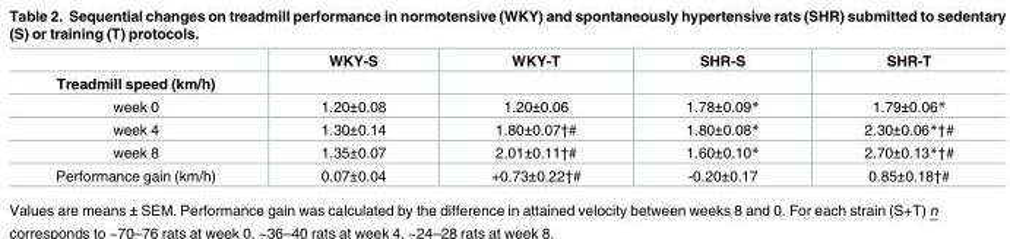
<table><thead><tr><td></td><td>WKY-S</td><td>WKY-T</td><td>SHR-S</td><td>SHR-T</td></tr></thead><tbody><tr><td colspan="5">Treadmill speed (km/h)</td></tr><tr><td>week 0</td><td>1.20±0.08</td><td>1.20±0.06</td><td>1.78±0.09*</td><td>1.79±0.06*</td></tr><tr><td>week 4</td><td>1.30±0.14</td><td>1.80±0.07†#</td><td>1.80±0.08*</td><td>2.30±0.06*†#</td></tr><tr><td>week 8</td><td>1.35±0.07</td><td>2.01±0.11†#</td><td>1.60±0.10*</td><td>2.70±0.13*†#</td></tr><tr><td>Performance gain (km/h)</td><td>0.07±0.04</td><td>+0.73±0.22†#</td><td>-0.20±0.17</td><td>0.85±0.18†#</td></tr></tbody></table>